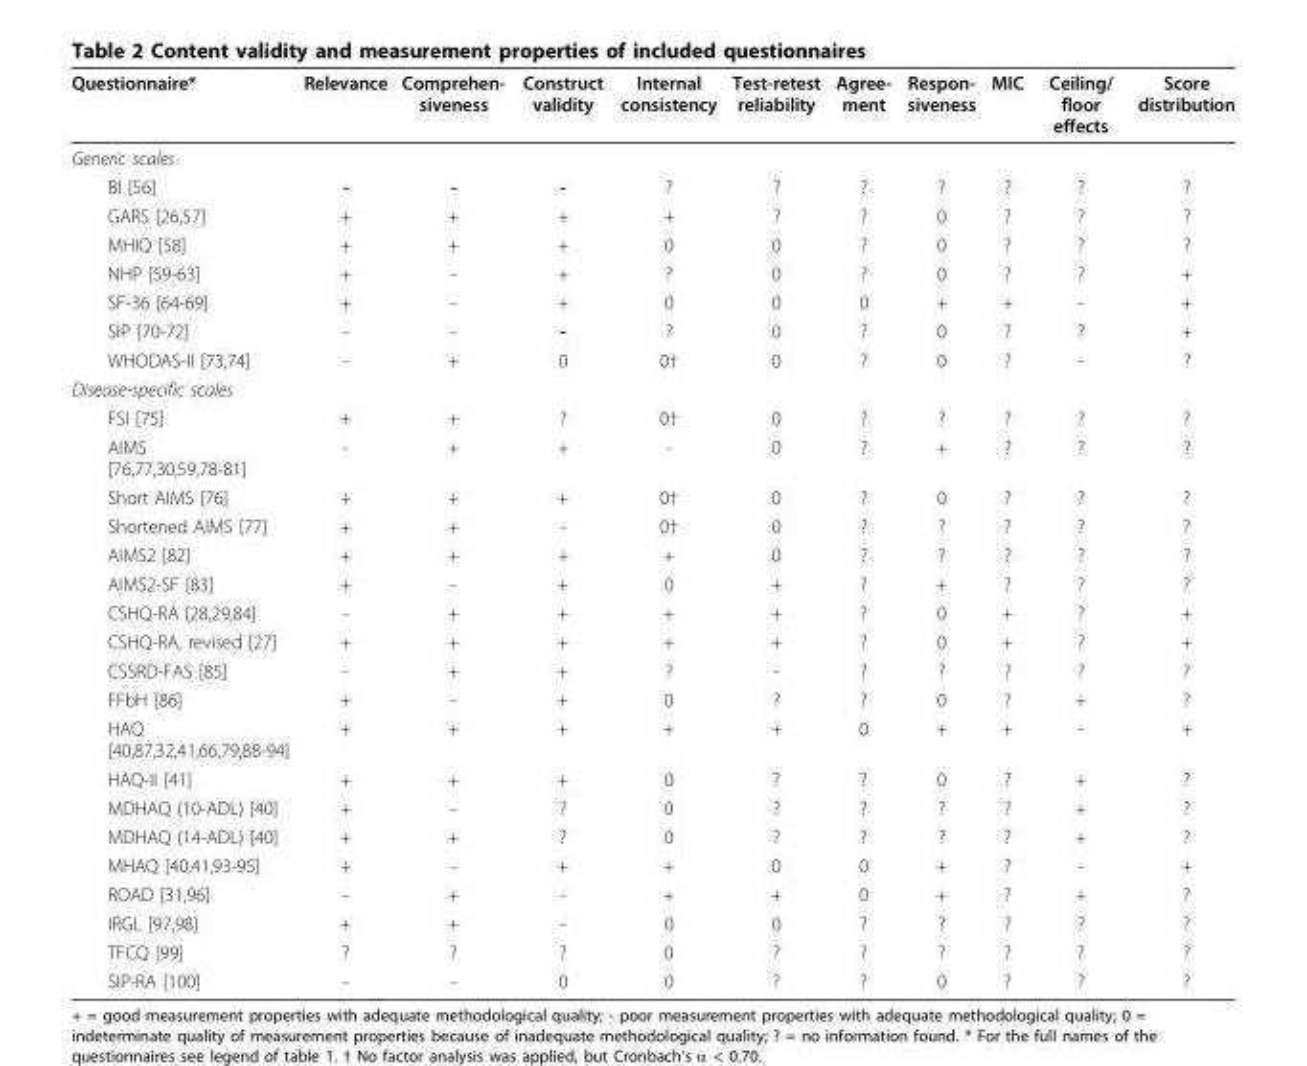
<table><thead><tr><td>Questionnaire*</td><td>Relevance</td><td>Comprehen- siveness</td><td>Construct validity</td><td>Internal consistency</td><td>Test-retest reliability</td><td>Agree- ment</td><td>Respon- siveness</td><td>MIC</td><td>Ceiling/ floor effects</td><td>Score distribution</td></tr></thead><tbody><tr><td colspan="11">Generic scales</td></tr><tr><td>BI [56]</td><td>-</td><td>-</td><td>-</td><td>?</td><td>?</td><td>?</td><td>?</td><td>?</td><td>?</td><td>?</td></tr><tr><td>GARS [26,57]</td><td>+</td><td>+</td><td>+</td><td>+</td><td>?</td><td>?</td><td>0</td><td>?</td><td>?</td><td>?</td></tr><tr><td>MHIQ [58]</td><td>+</td><td>+</td><td>+</td><td>0</td><td>0</td><td>?</td><td>0</td><td>?</td><td>?</td><td>?</td></tr><tr><td>NHP [59-63]</td><td>+</td><td>-</td><td>+</td><td>?</td><td>0</td><td>?</td><td>0</td><td>?</td><td>?</td><td>+</td></tr><tr><td>SF-36 [64-69]</td><td>+</td><td>-</td><td>+</td><td>0</td><td>0</td><td>0</td><td>+</td><td>+</td><td>-</td><td>+</td></tr><tr><td>SIP [70-72]</td><td>-</td><td>-</td><td>-</td><td>?</td><td>0</td><td>?</td><td>0</td><td>?</td><td>?</td><td>+</td></tr><tr><td>WHODAS-II [73,74]</td><td>-</td><td>+</td><td>0</td><td>0†</td><td>0</td><td>?</td><td>0</td><td>?</td><td>-</td><td>?</td></tr><tr><td colspan="11">Disease-specific scales</td></tr><tr><td>FSI [75]</td><td>+</td><td>+</td><td>?</td><td>0†</td><td>0</td><td>?</td><td>?</td><td>?</td><td>?</td><td>?</td></tr><tr><td>AIMS [76,77,30,59,78-81]</td><td>-</td><td>+</td><td>+</td><td>-</td><td>0</td><td>?</td><td>+</td><td>?</td><td>?</td><td>?</td></tr><tr><td>Short AIMS [76]</td><td>+</td><td>+</td><td>+</td><td>0†</td><td>0</td><td>?</td><td>0</td><td>?</td><td>?</td><td>?</td></tr><tr><td>Shortened AIMS [77]</td><td>+</td><td>+</td><td>-</td><td>0†</td><td>0</td><td>?</td><td>?</td><td>?</td><td>?</td><td>?</td></tr><tr><td>AIMS2 [82]</td><td>+</td><td>+</td><td>+</td><td>+</td><td>0</td><td>?</td><td>?</td><td>?</td><td>?</td><td>?</td></tr><tr><td>AIMS2-SF [83]</td><td>+</td><td>-</td><td>+</td><td>0</td><td>+</td><td>?</td><td>+</td><td>?</td><td>?</td><td>?</td></tr><tr><td>CSHQ-RA [28,29,84]</td><td>-</td><td>+</td><td>+</td><td>+</td><td>+</td><td>?</td><td>0</td><td>+</td><td>?</td><td>+</td></tr><tr><td>CSHQ-RA, revised [27]</td><td>+</td><td>+</td><td>+</td><td>+</td><td>+</td><td>?</td><td>0</td><td>+</td><td>?</td><td>+</td></tr><tr><td>CSSRD-FAS [85]</td><td>-</td><td>+</td><td>+</td><td>?</td><td>-</td><td>?</td><td>?</td><td>?</td><td>?</td><td>?</td></tr><tr><td>FFbH [86]</td><td>+</td><td>-</td><td>+</td><td>0</td><td>?</td><td>?</td><td>0</td><td>?</td><td>+</td><td>?</td></tr><tr><td>HAQ [40,87,32,41,66,79,88-94]</td><td>+</td><td>+</td><td>+</td><td>+</td><td>+</td><td>0</td><td>+</td><td>+</td><td>-</td><td>+</td></tr><tr><td>HAQ-II [41]</td><td>+</td><td>+</td><td>+</td><td>0</td><td>?</td><td>?</td><td>0</td><td>?</td><td>+</td><td>?</td></tr><tr><td>MDHAQ (10-ADL) [40]</td><td>+</td><td>-</td><td>?</td><td>0</td><td>?</td><td>?</td><td>?</td><td>?</td><td>+</td><td>?</td></tr><tr><td>MDHAQ (14-ADL) [40]</td><td>+</td><td>+</td><td>?</td><td>0</td><td>?</td><td>?</td><td>?</td><td>?</td><td>+</td><td>?</td></tr><tr><td>MHAQ [40,41,93-95]</td><td>+</td><td>-</td><td>+</td><td>+</td><td>0</td><td>0</td><td>+</td><td>?</td><td>-</td><td>+</td></tr><tr><td>ROAD [31,96]</td><td>-</td><td>+</td><td>-</td><td>+</td><td>+</td><td>0</td><td>+</td><td>?</td><td>+</td><td>?</td></tr><tr><td>IRGL [97,98]</td><td>+</td><td>+</td><td>-</td><td>0</td><td>0</td><td>?</td><td>?</td><td>?</td><td>?</td><td>?</td></tr><tr><td>TFCQ [99]</td><td>?</td><td>?</td><td>?</td><td>0</td><td>?</td><td>?</td><td>?</td><td>?</td><td>?</td><td>?</td></tr><tr><td>SIP-RA [100]</td><td>-</td><td>-</td><td>0</td><td>0</td><td>?</td><td>?</td><td>0</td><td>?</td><td>?</td><td>?</td></tr></tbody></table>